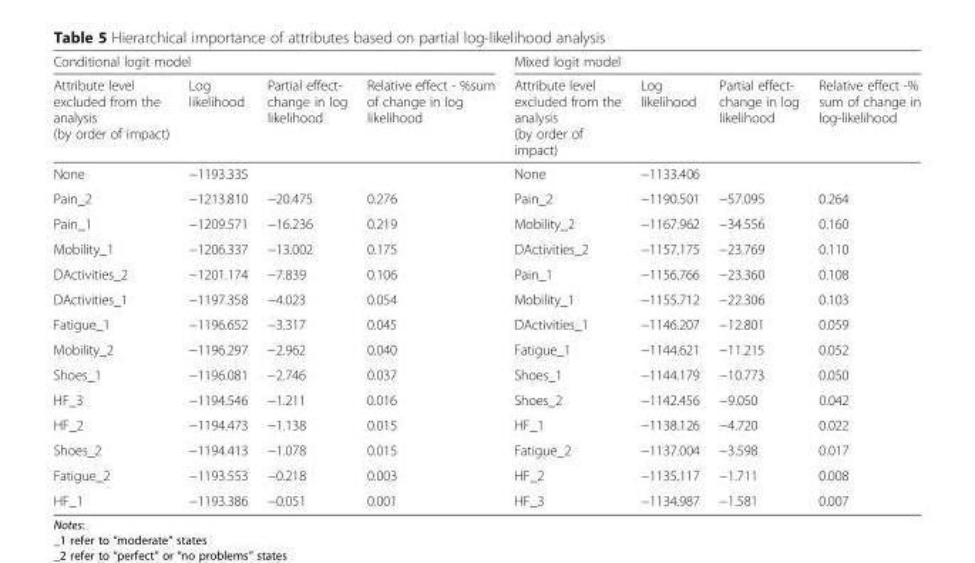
<table><thead><tr><td colspan="4">Conditional logit model</td><td colspan="4">Mixed logit model</td></tr><tr><td>Attribute level excluded from the analysis (by order of impact)</td><td>Log likelihood</td><td>Partial effect- change in log likelihood</td><td>Relative effect - %sum of change in log likelihood</td><td>Attribute level excluded from the analysis (by order of impact)</td><td>Log likelihood</td><td>Partial effect- change in log likelihood</td><td>Relative effect -% sum of change in log-likelihood</td></tr></thead><tbody><tr><td>None</td><td>−1193.335</td><td></td><td></td><td>None</td><td>−1133.406</td><td></td><td></td></tr><tr><td>Pain_2</td><td>−1213.810</td><td>−20.475</td><td>0.276</td><td>Pain_2</td><td>−1190.501</td><td>−57.095</td><td>0.264</td></tr><tr><td>Pain_1</td><td>−1209.571</td><td>−16.236</td><td>0.219</td><td>Mobility_2</td><td>−1167.962</td><td>−34.556</td><td>0.160</td></tr><tr><td>Mobility_1</td><td>−1206.337</td><td>−13.002</td><td>0.175</td><td>DActivities_2</td><td>−1157.175</td><td>−23.769</td><td>0.110</td></tr><tr><td>DActivities_2</td><td>−1201.174</td><td>−7.839</td><td>0.106</td><td>Pain_1</td><td>−1156.766</td><td>−23.360</td><td>0.108</td></tr><tr><td>DActivities_1</td><td>−1197.358</td><td>−4.023</td><td>0.054</td><td>Mobility_1</td><td>−1155.712</td><td>−22.306</td><td>0.103</td></tr><tr><td>Fatigue_1</td><td>−1196.652</td><td>−3.317</td><td>0.045</td><td>DActivities_1</td><td>−1146.207</td><td>−12.801</td><td>0.059</td></tr><tr><td>Mobility_2</td><td>−1196.297</td><td>−2.962</td><td>0.040</td><td>Fatigue_1</td><td>−1144.621</td><td>−11.215</td><td>0.052</td></tr><tr><td>Shoes_1</td><td>−1196.081</td><td>−2.746</td><td>0.037</td><td>Shoes_1</td><td>−1144.179</td><td>−10.773</td><td>0.050</td></tr><tr><td>HF_3</td><td>−1194.546</td><td>−1.211</td><td>0.016</td><td>Shoes_2</td><td>−1142.456</td><td>−9.050</td><td>0.042</td></tr><tr><td>HF_2</td><td>−1194.473</td><td>−1.138</td><td>0.015</td><td>HF_1</td><td>−1138.126</td><td>−4.720</td><td>0.022</td></tr><tr><td>Shoes_2</td><td>−1194.413</td><td>−1.078</td><td>0.015</td><td>Fatigue_2</td><td>−1137.004</td><td>−3.598</td><td>0.017</td></tr><tr><td>Fatigue_2</td><td>−1193.553</td><td>−0.218</td><td>0.003</td><td>HF_2</td><td>−1135.117</td><td>−1.711</td><td>0.008</td></tr><tr><td>HF_1</td><td>−1193.386</td><td>−0.051</td><td>0.001</td><td>HF_3</td><td>−1134.987</td><td>−1.581</td><td>0.007</td></tr></tbody></table>